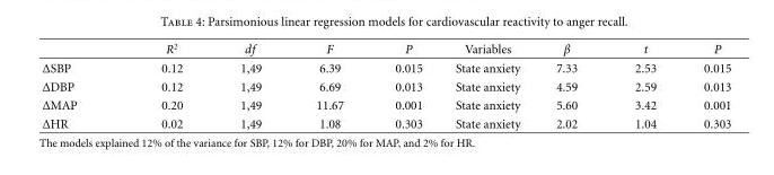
<table><thead><tr><td></td><td>R<sup>2</sup></td><td>df</td><td>F</td><td>P</td><td>Variables</td><td>β</td><td>t</td><td>P</td></tr></thead><tbody><tr><td>ΔSBP</td><td>0.12</td><td>1,49</td><td>6.39</td><td>0.015</td><td>State anxiety</td><td>7.33</td><td>2.53</td><td>0.015</td></tr><tr><td>ΔDBP</td><td>0.12</td><td>1,49</td><td>6.69</td><td>0.013</td><td>State anxiety</td><td>4.59</td><td>2.59</td><td>0.013</td></tr><tr><td>ΔMAP</td><td>0.20</td><td>1,49</td><td>11.67</td><td>0.001</td><td>State anxiety</td><td>5.60</td><td>3.42</td><td>0.001</td></tr><tr><td>ΔHR</td><td>0.02</td><td>1,49</td><td>1.08</td><td>0.303</td><td>State anxiety</td><td>2.02</td><td>1.04</td><td>0.303</td></tr></tbody></table>